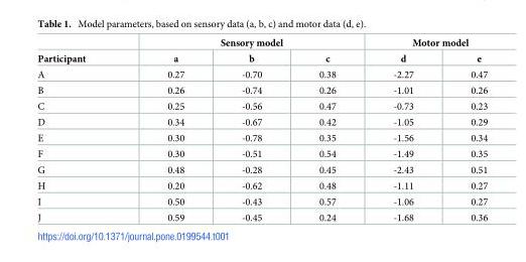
<table><thead><tr><td rowspan="2">Participant</td><td colspan="3">Sensory model</td><td colspan="2">Motor model</td></tr><tr><td>a</td><td>b</td><td>c</td><td>d</td><td>e</td></tr></thead><tbody><tr><td>A</td><td>0.27</td><td>-0.70</td><td>0.38</td><td>-2.27</td><td>0.47</td></tr><tr><td>B</td><td>0.26</td><td>-0.74</td><td>0.26</td><td>-1.01</td><td>0.26</td></tr><tr><td>C</td><td>0.25</td><td>-0.56</td><td>0.47</td><td>-0.73</td><td>0.23</td></tr><tr><td>D</td><td>0.34</td><td>-0.67</td><td>0.42</td><td>-1.05</td><td>0.29</td></tr><tr><td>E</td><td>0.30</td><td>-0.78</td><td>0.35</td><td>-1.56</td><td>0.34</td></tr><tr><td>F</td><td>0.30</td><td>-0.51</td><td>0.54</td><td>-1.49</td><td>0.35</td></tr><tr><td>G</td><td>0.48</td><td>-0.28</td><td>0.45</td><td>-2.43</td><td>0.51</td></tr><tr><td>H</td><td>0.20</td><td>-0.62</td><td>0.48</td><td>-1.11</td><td>0.27</td></tr><tr><td>I</td><td>0.50</td><td>-0.43</td><td>0.57</td><td>-1.06</td><td>0.27</td></tr><tr><td>J</td><td>0.59</td><td>-0.45</td><td>0.24</td><td>-1.68</td><td>0.36</td></tr></tbody></table>